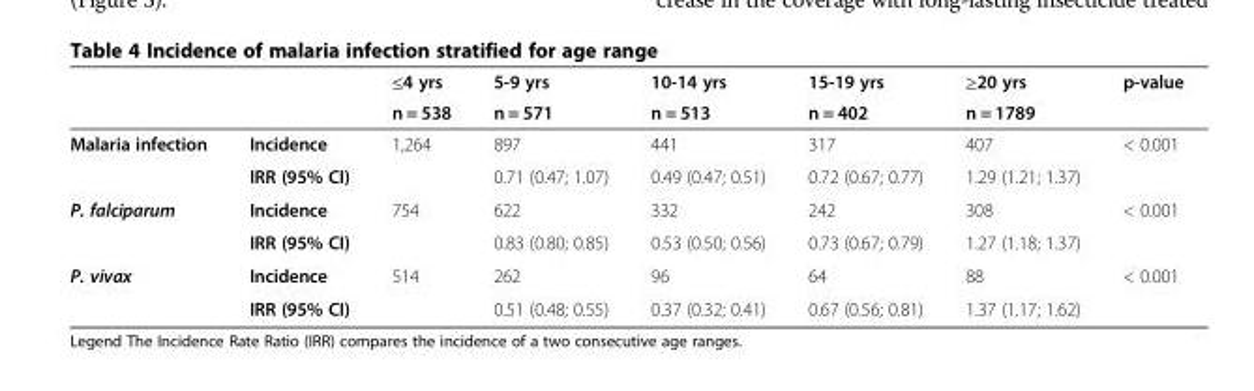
<table><thead><tr><td rowspan="2"></td><td rowspan="2"></td><td rowspan="2">≤4 yrs n = 538</td><td rowspan="2">5-9 yrs n = 571</td><td rowspan="2">10-14 yrs n = 513</td><td rowspan="2">15-19 yrs n = 402</td><td rowspan="2">≥20 yrs n = 1789</td><td rowspan="2">p-value</td></tr><tr></tr></thead><tbody><tr><td rowspan="2">Malaria infection</td><td>Incidence</td><td>1,264</td><td>897</td><td>441</td><td>317</td><td>407</td><td rowspan="2">&lt; 0.001</td></tr><tr><td>IRR (95% CI)</td><td></td><td>0.71 (0.47; 1.07)</td><td>0.49 (0.47; 0.51)</td><td>0.72 (0.67; 0.77)</td><td>1.29 (1.21; 1.37)</td></tr><tr><td rowspan="2">P. falciparum</td><td>Incidence</td><td>754</td><td>622</td><td>332</td><td>242</td><td>308</td><td rowspan="2">&lt; 0.001</td></tr><tr><td>IRR (95% CI)</td><td></td><td>0.83 (0.80; 0.85)</td><td>0.53 (0.50; 0.56)</td><td>0.73 (0.67; 0.79)</td><td>1.27 (1.18; 1.37)</td></tr><tr><td rowspan="2">P. vivax</td><td>Incidence</td><td>514</td><td>262</td><td>96</td><td>64</td><td>88</td><td rowspan="2">&lt; 0.001</td></tr><tr><td>IRR (95% CI)</td><td></td><td>0.51 (0.48; 0.55)</td><td>0.37 (0.32; 0.41)</td><td>0.67 (0.56; 0.81)</td><td>1.37 (1.17; 1.62)</td></tr></tbody></table>